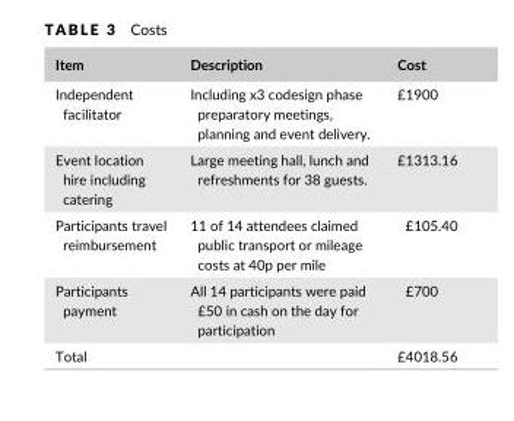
<table><thead><tr><td>Item</td><td>Description</td><td>Cost</td></tr></thead><tbody><tr><td>Independent facilitator</td><td>Including x3 codesign phase preparatory meetings, planning and event delivery.</td><td>£1900</td></tr><tr><td>Event location hire including catering</td><td>Large meeting hall, lunch and refreshments for 38 guests.</td><td>£1313.16</td></tr><tr><td>Participants travel reimbursement</td><td>11 of 14 attendees claimed public transport or mileage costs at 40p per mile</td><td>£105.40</td></tr><tr><td>Participants payment</td><td>All 14 participants were paid £50 in cash on the day for participation</td><td>£700</td></tr><tr><td colspan="2">Total</td><td>£4018.56</td></tr></tbody></table>